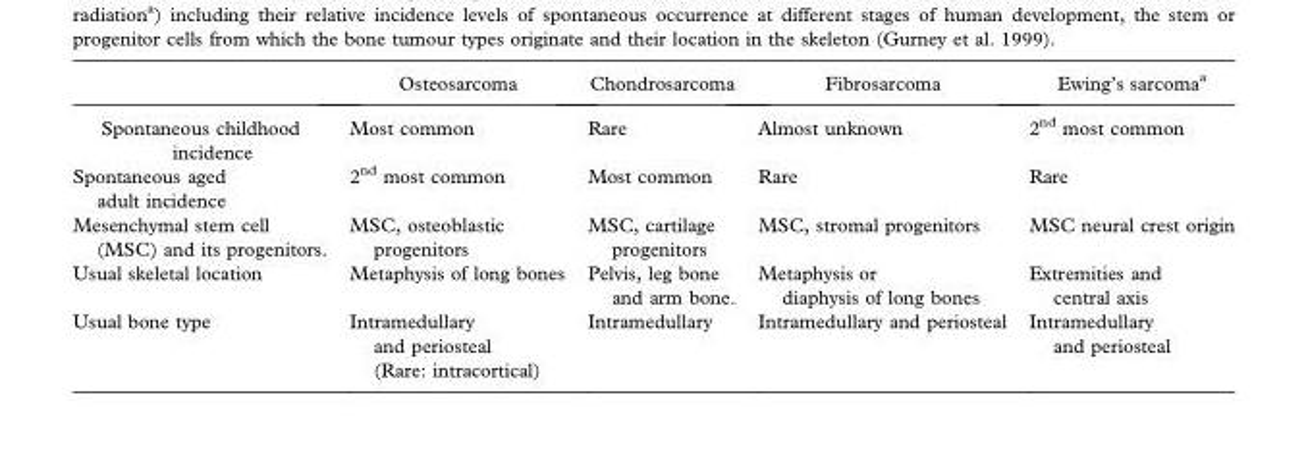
<table><thead><tr><td></td><td>Osteosarcoma</td><td>Chondrosarcoma</td><td>Fibrosarcoma</td><td>Ewing’s sarcoma<sup>a</sup></td></tr></thead><tbody><tr><td>Spontaneous childhood incidence</td><td>Most common</td><td>Rare</td><td>Almost unknown</td><td>2<sup>nd</sup> most common</td></tr><tr><td>Spontaneous aged adult incidence</td><td>2<sup>nd</sup> most common</td><td>Most common</td><td>Rare</td><td>Rare</td></tr><tr><td>Mesenchymal stem cell (MSC) and its progenitors.</td><td>MSC, osteoblastic progenitors</td><td>MSC, cartilage progenitors</td><td>MSC, stromal progenitors</td><td>MSC neural crest origin</td></tr><tr><td>Usual skeletal location</td><td>Metaphysis of long bones</td><td>Pelvis, leg bone and arm bone.</td><td>Metaphysis or diaphysis of long bones</td><td>Extremities and central axis</td></tr><tr><td>Usual bone type</td><td>Intramedullary and periosteal (Rare: intracortical)</td><td>Intramedullary</td><td>Intramedullary and periosteal</td><td>Intramedullary and periosteal</td></tr></tbody></table>